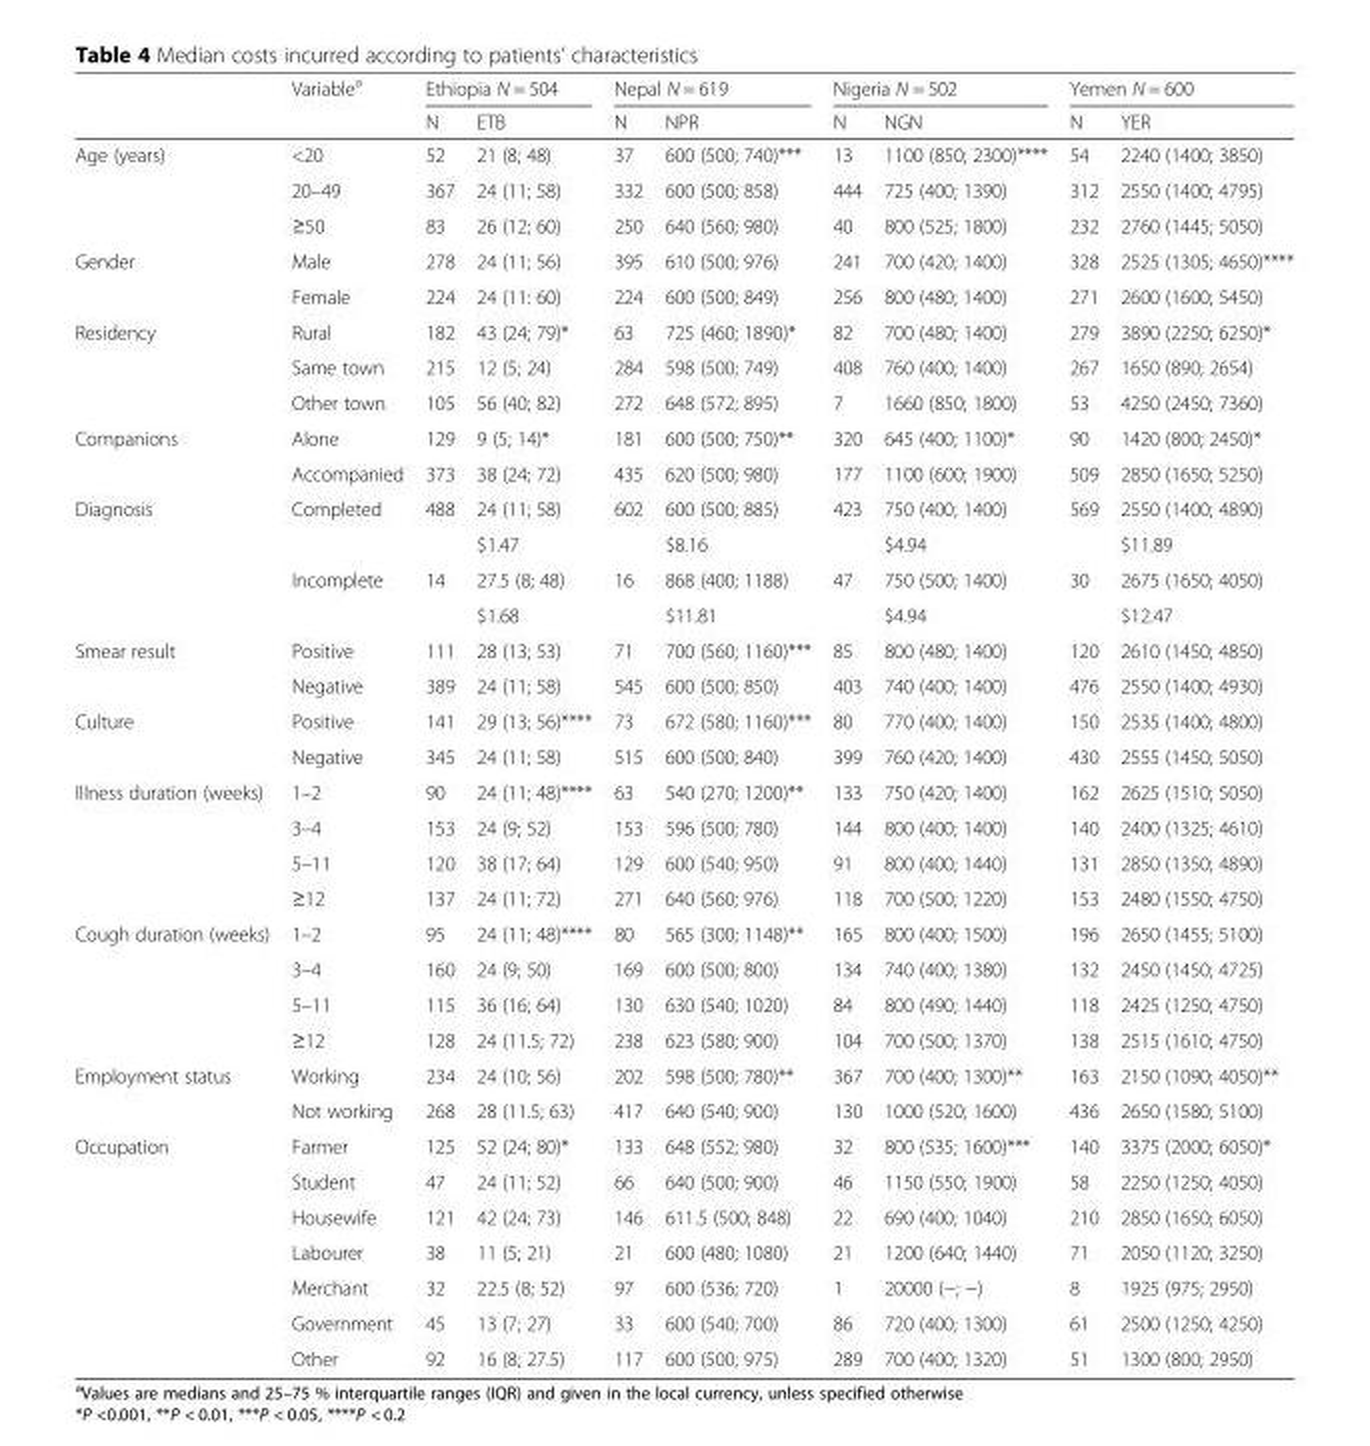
<table><thead><tr><td rowspan="2"></td><td rowspan="2">Variable<sup>a</sup></td><td colspan="2">Ethiopia N = 504</td><td colspan="2">Nepal N = 619</td><td colspan="2">Nigeria N = 502</td><td colspan="2">Yemen N = 600</td></tr><tr><td>N</td><td>ETB</td><td>N</td><td>NPR</td><td>N</td><td>NGN</td><td>N</td><td>YER</td></tr></thead><tbody><tr><td rowspan="3">Age (years)</td><td>&lt;20</td><td>52</td><td>21 (8; 48)</td><td>37</td><td>600 (500; 740)***</td><td>13</td><td>1100 (850; 2300)****</td><td>54</td><td>2240 (1400; 3850)</td></tr><tr><td>20–49</td><td>367</td><td>24 (11; 58)</td><td>332</td><td>600 (500; 858)</td><td>444</td><td>725 (400; 1390)</td><td>312</td><td>2550 (1400; 4795)</td></tr><tr><td>≥50</td><td>83</td><td>26 (12; 60)</td><td>250</td><td>640 (560; 980)</td><td>40</td><td>800 (525; 1800)</td><td>232</td><td>2760 (1445; 5050)</td></tr><tr><td rowspan="2">Gender</td><td>Male</td><td>278</td><td>24 (11; 56)</td><td>395</td><td>610 (500; 976)</td><td>241</td><td>700 (420; 1400)</td><td>328</td><td>2525 (1305; 4650)****</td></tr><tr><td>Female</td><td>224</td><td>24 (11: 60)</td><td>224</td><td>600 (500; 849)</td><td>256</td><td>800 (480; 1400)</td><td>271</td><td>2600 (1600; 5450)</td></tr><tr><td rowspan="3">Residency</td><td>Rural</td><td>182</td><td>43 (24; 79)*</td><td>63</td><td>725 (460; 1890)*</td><td>82</td><td>700 (480; 1400)</td><td>279</td><td>3890 (2250; 6250)*</td></tr><tr><td>Same town</td><td>215</td><td>12 (5; 24)</td><td>284</td><td>598 (500; 749)</td><td>408</td><td>760 (400; 1400)</td><td>267</td><td>1650 (890; 2654)</td></tr><tr><td>Other town</td><td>105</td><td>56 (40; 82)</td><td>272</td><td>648 (572; 895)</td><td>7</td><td>1660 (850; 1800)</td><td>53</td><td>4250 (2450; 7360)</td></tr><tr><td rowspan="2">Companions</td><td>Alone</td><td>129</td><td>9 (5; 14)*</td><td>181</td><td>600 (500; 750)**</td><td>320</td><td>645 (400; 1100)*</td><td>90</td><td>1420 (800; 2450)*</td></tr><tr><td>Accompanied</td><td>373</td><td>38 (24; 72)</td><td>435</td><td>620 (500; 980)</td><td>177</td><td>1100 (600; 1900)</td><td>509</td><td>2850 (1650; 5250)</td></tr><tr><td rowspan="4">Diagnosis</td><td rowspan="2">Completed</td><td rowspan="2">488</td><td>24 (11; 58)</td><td rowspan="2">602</td><td>600 (500; 885)</td><td rowspan="2">423</td><td>750 (400; 1400)</td><td rowspan="2">569</td><td>2550 (1400; 4890)</td></tr><tr><td>$1.47</td><td>$8.16</td><td>$4.94</td><td>$11.89</td></tr><tr><td rowspan="2">Incomplete</td><td rowspan="2">14</td><td>27.5 (8; 48)</td><td rowspan="2">16</td><td>868 (400; 1188)</td><td rowspan="2">47</td><td>750 (500; 1400)</td><td rowspan="2">30</td><td>2675 (1650; 4050)</td></tr><tr><td>$1.68</td><td>$11.81</td><td>$4.94</td><td>$12.47</td></tr><tr><td rowspan="2">Smear result</td><td>Positive</td><td>111</td><td>28 (13; 53)</td><td>71</td><td>700 (560; 1160)***</td><td>85</td><td>800 (480; 1400)</td><td>120</td><td>2610 (1450; 4850)</td></tr><tr><td>Negative</td><td>389</td><td>24 (11; 58)</td><td>545</td><td>600 (500; 850)</td><td>403</td><td>740 (400; 1400)</td><td>476</td><td>2550 (1400; 4930)</td></tr><tr><td rowspan="2">Culture</td><td>Positive</td><td>141</td><td>29 (13; 56)****</td><td>73</td><td>672 (580; 1160)***</td><td>80</td><td>770 (400; 1400)</td><td>150</td><td>2535 (1400; 4800)</td></tr><tr><td>Negative</td><td>345</td><td>24 (11; 58)</td><td>515</td><td>600 (500; 840)</td><td>399</td><td>760 (420; 1400)</td><td>430</td><td>2555 (1450; 5050)</td></tr><tr><td rowspan="4">Illness duration (weeks)</td><td>1–2</td><td>90</td><td>24 (11; 48)****</td><td>63</td><td>540 (270; 1200)**</td><td>133</td><td>750 (420; 1400)</td><td>162</td><td>2625 (1510; 5050)</td></tr><tr><td>3–4</td><td>153</td><td>24 (9; 52)</td><td>153</td><td>596 (500; 780)</td><td>144</td><td>800 (400; 1400)</td><td>140</td><td>2400 (1325; 4610)</td></tr><tr><td>5–11</td><td>120</td><td>38 (17; 64)</td><td>129</td><td>600 (540; 950)</td><td>91</td><td>800 (400; 1440)</td><td>131</td><td>2850 (1350; 4890)</td></tr><tr><td>≥12</td><td>137</td><td>24 (11; 72)</td><td>271</td><td>640 (560; 976)</td><td>118</td><td>700 (500; 1220)</td><td>153</td><td>2480 (1550; 4750)</td></tr><tr><td rowspan="4">Cough duration (weeks)</td><td>1–2</td><td>95</td><td>24 (11; 48)****</td><td>80</td><td>565 (300; 1148)**</td><td>165</td><td>800 (400; 1500)</td><td>196</td><td>2650 (1455; 5100)</td></tr><tr><td>3–4</td><td>160</td><td>24 (9; 50)</td><td>169</td><td>600 (500; 800)</td><td>134</td><td>740 (400; 1380)</td><td>132</td><td>2450 (1450; 4725)</td></tr><tr><td>5–11</td><td>115</td><td>36 (16; 64)</td><td>130</td><td>630 (540; 1020)</td><td>84</td><td>800 (490; 1440)</td><td>118</td><td>2425 (1250; 4750)</td></tr><tr><td>≥12</td><td>128</td><td>24 (11.5; 72)</td><td>238</td><td>623 (580; 900)</td><td>104</td><td>700 (500; 1370)</td><td>138</td><td>2515 (1610; 4750)</td></tr><tr><td rowspan="2">Employment status</td><td>Working</td><td>234</td><td>24 (10; 56)</td><td>202</td><td>598 (500; 780)**</td><td>367</td><td>700 (400; 1300)**</td><td>163</td><td>2150 (1090; 4050)**</td></tr><tr><td>Not working</td><td>268</td><td>28 (11.5; 63)</td><td>417</td><td>640 (540; 900)</td><td>130</td><td>1000 (520; 1600)</td><td>436</td><td>2650 (1580; 5100)</td></tr><tr><td rowspan="7">Occupation</td><td>Farmer</td><td>125</td><td>52 (24; 80)*</td><td>133</td><td>648 (552; 980)</td><td>32</td><td>800 (535; 1600)***</td><td>140</td><td>3375 (2000; 6050)*</td></tr><tr><td>Student</td><td>47</td><td>24 (11; 52)</td><td>66</td><td>640 (500; 900)</td><td>46</td><td>1150 (550; 1900)</td><td>58</td><td>2250 (1250; 4050)</td></tr><tr><td>Housewife</td><td>121</td><td>42 (24; 73)</td><td>146</td><td>611.5 (500; 848)</td><td>22</td><td>690 (400; 1040)</td><td>210</td><td>2850 (1650; 6050)</td></tr><tr><td>Labourer</td><td>38</td><td>11 (5; 21)</td><td>21</td><td>600 (480; 1080)</td><td>21</td><td>1200 (640; 1440)</td><td>71</td><td>2050 (1120; 3250)</td></tr><tr><td>Merchant</td><td>32</td><td>22.5 (8; 52)</td><td>97</td><td>600 (536; 720)</td><td>1</td><td>20000 (−; −)</td><td>8</td><td>1925 (975; 2950)</td></tr><tr><td>Government</td><td>45</td><td>13 (7; 27)</td><td>33</td><td>600 (540; 700)</td><td>86</td><td>720 (400; 1300)</td><td>61</td><td>2500 (1250; 4250)</td></tr><tr><td>Other</td><td>92</td><td>16 (8; 27.5)</td><td>117</td><td>600 (500; 975)</td><td>289</td><td>700 (400; 1320)</td><td>51</td><td>1300 (800; 2950)</td></tr></tbody></table>